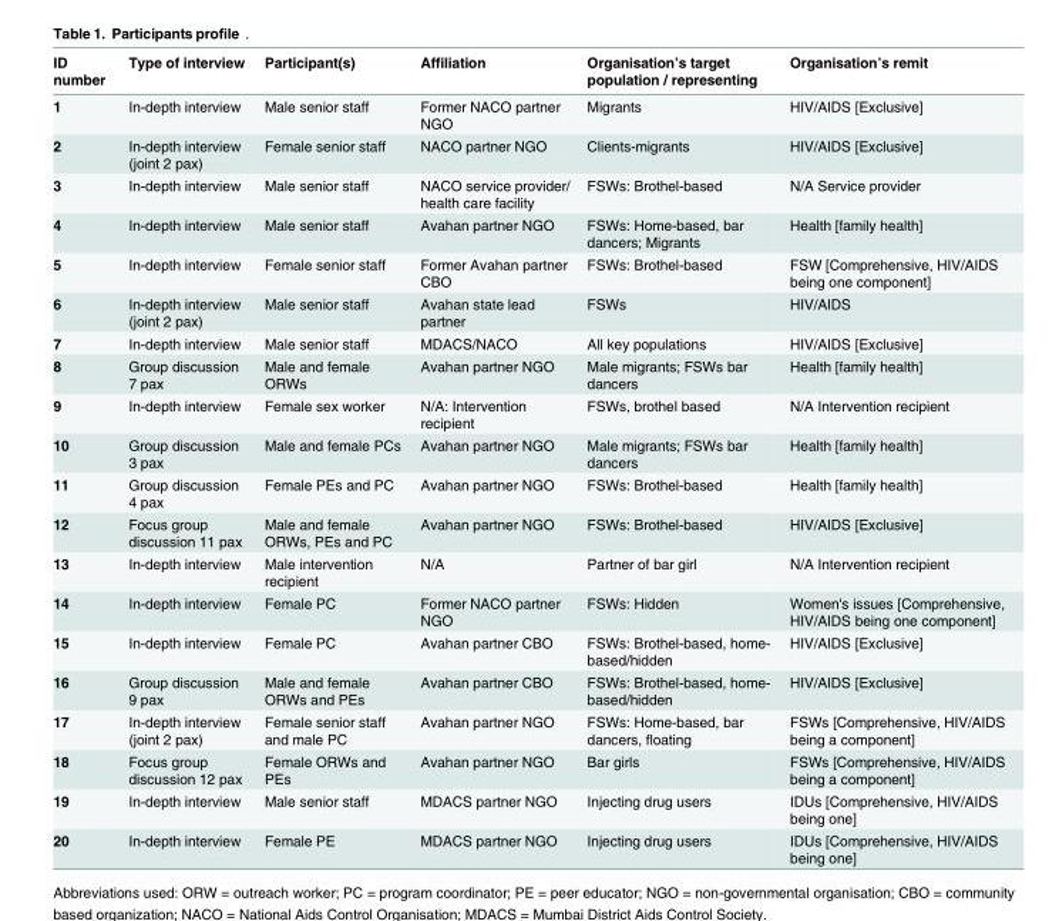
<table><thead><tr><td>ID number</td><td>Type of interview</td><td>Participant(s)</td><td>Affiliation</td><td>Organisation’s target population / representing</td><td>Organisation’s remit</td></tr></thead><tbody><tr><td>1</td><td>In-depth interview</td><td>Male senior staff</td><td>Former NACO partner NGO</td><td>Migrants</td><td>HIV/AIDS [Exclusive]</td></tr><tr><td>2</td><td>In-depth interview (joint 2 pax)</td><td>Female senior staff</td><td>NACO partner NGO</td><td>Clients-migrants</td><td>HIV/AIDS [Exclusive]</td></tr><tr><td>3</td><td>In-depth interview</td><td>Male senior staff</td><td>NACO service provider/ health care facility</td><td>FSWs: Brothel-based</td><td>N/A Service provider</td></tr><tr><td>4</td><td>In-depth interview</td><td>Male senior staff</td><td>Avahan partner NGO</td><td>FSWs: Home-based, bar dancers; Migrants</td><td>Health [family health]</td></tr><tr><td>5</td><td>In-depth interview</td><td>Female senior staff</td><td>Former Avahan partner CBO</td><td>FSWs: Brothel-based</td><td>FSW [Comprehensive, HIV/AIDS being one component]</td></tr><tr><td>6</td><td>In-depth interview (joint 2 pax)</td><td>Male senior staff</td><td>Avahan state lead partner</td><td>FSWs</td><td>HIV/AIDS</td></tr><tr><td>7</td><td>In-depth interview</td><td>Male senior staff</td><td>MDACS/NACO</td><td>All key populations</td><td>HIV/AIDS [Exclusive]</td></tr><tr><td>8</td><td>Group discussion 7 pax</td><td>Male and female ORWs</td><td>Avahan partner NGO</td><td>Male migrants; FSWs bar dancers</td><td>Health [family health]</td></tr><tr><td>9</td><td>In-depth interview</td><td>Female sex worker</td><td>N/A: Intervention recipient</td><td>FSWs, brothel based</td><td>N/A Intervention recipient</td></tr><tr><td>10</td><td>Group discussion 3 pax</td><td>Male and female PCs</td><td>Avahan partner NGO</td><td>Male migrants; FSWs bar dancers</td><td>Health [family health]</td></tr><tr><td>11</td><td>Group discussion 4 pax</td><td>Female PEs and PC</td><td>Avahan partner NGO</td><td>FSWs: Brothel-based</td><td>Health [family health]</td></tr><tr><td>12</td><td>Focus group discussion 11 pax</td><td>Male and female ORWs, PEs and PC</td><td>Avahan partner NGO</td><td>FSWs: Brothel-based</td><td>HIV/AIDS [Exclusive]</td></tr><tr><td>13</td><td>In-depth interview</td><td>Male intervention recipient</td><td>N/A</td><td>Partner of bar girl</td><td>N/A Intervention recipient</td></tr><tr><td>14</td><td>In-depth interview</td><td>Female PC</td><td>Former NACO partner NGO</td><td>FSWs: Hidden</td><td>Women&#x27;s issues [Comprehensive, HIV/AIDS being one component]</td></tr><tr><td>15</td><td>In-depth interview</td><td>Female PC</td><td>Avahan partner CBO</td><td>FSWs: Brothel-based, home- based/hidden</td><td>HIV/AIDS [Exclusive]</td></tr><tr><td>16</td><td>Group discussion 9 pax</td><td>Male and female ORWs and PEs</td><td>Avahan partner CBO</td><td>FSWs: Brothel-based, home- based/hidden</td><td>HIV/AIDS [Exclusive]</td></tr><tr><td>17</td><td>In-depth interview (joint 2 pax)</td><td>Female senior staff and male PC</td><td>Avahan partner NGO</td><td>FSWs: Home-based, bar dancers, floating</td><td>FSWs [Comprehensive, HIV/AIDS being a component]</td></tr><tr><td>18</td><td>Focus group discussion 12 pax</td><td>Female ORWs and PEs</td><td>Avahan partner NGO</td><td>Bar girls</td><td>FSWs [Comprehensive, HIV/AIDS being a component]</td></tr><tr><td>19</td><td>In-depth interview</td><td>Male senior staff</td><td>MDACS partner NGO</td><td>Injecting drug users</td><td>IDUs [Comprehensive, HIV/AIDS being one]</td></tr><tr><td>20</td><td>In-depth interview</td><td>Female PE</td><td>MDACS partner NGO</td><td>Injecting drug users</td><td>IDUs [Comprehensive, HIV/AIDS being one]</td></tr></tbody></table>